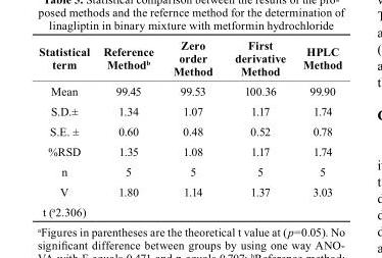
<table><thead><tr><td>statistical term</td><td>Reference Method<sup>b</sup></td><td>Zero order Method</td><td>First derivative Method</td><td>HPLC Method</td></tr></thead><tbody><tr><td>Mean</td><td>99.45</td><td>99.53</td><td>100.36</td><td>99.90</td></tr><tr><td>S.D.±</td><td>1.34</td><td>1.07</td><td>1.17</td><td>1.74</td></tr><tr><td>S.E. ±</td><td>0.60</td><td>0.48</td><td>0.52</td><td>0.78</td></tr><tr><td>%RSD</td><td>1.35</td><td>1.08</td><td>1.17</td><td>1.74</td></tr><tr><td>n</td><td>5</td><td>5</td><td>5</td><td>5</td></tr><tr><td>V</td><td>1.80</td><td>1.14</td><td>1.37</td><td>3.03</td></tr><tr><td>t (a2.306)</td><td></td><td></td><td></td><td></td></tr></tbody></table>